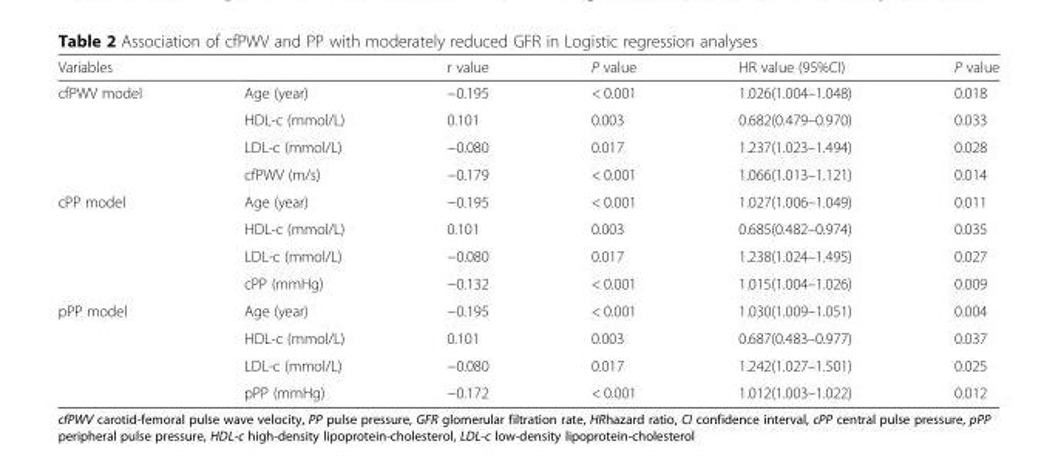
<table><thead><tr><td>Variables</td><td></td><td>r value</td><td>P value</td><td>HR value (95%CI)</td><td>P value</td></tr></thead><tbody><tr><td rowspan="4">cfPWV model</td><td>Age (year)</td><td>−0.195</td><td>&lt; 0.001</td><td>1.026(1.004–1.048)</td><td>0.018</td></tr><tr><td>HDL-c (mmol/L)</td><td>0.101</td><td>0.003</td><td>0.682(0.479–0.970)</td><td>0.033</td></tr><tr><td>LDL-c (mmol/L)</td><td>−0.080</td><td>0.017</td><td>1.237(1.023–1.494)</td><td>0.028</td></tr><tr><td>cfPWV (m/s)</td><td>−0.179</td><td>&lt; 0.001</td><td>1.066(1.013–1.121)</td><td>0.014</td></tr><tr><td rowspan="4">cPP model</td><td>Age (year)</td><td>−0.195</td><td>&lt; 0.001</td><td>1.027(1.006–1.049)</td><td>0.011</td></tr><tr><td>HDL-c (mmol/L)</td><td>0.101</td><td>0.003</td><td>0.685(0.482–0.974)</td><td>0.035</td></tr><tr><td>LDL-c (mmol/L)</td><td>−0.080</td><td>0.017</td><td>1.238(1.024–1.495)</td><td>0.027</td></tr><tr><td>cPP (mmHg)</td><td>−0.132</td><td>&lt; 0.001</td><td>1.015(1.004–1.026)</td><td>0.009</td></tr><tr><td rowspan="4">pPP model</td><td>Age (year)</td><td>−0.195</td><td>&lt; 0.001</td><td>1.030(1.009–1.051)</td><td>0.004</td></tr><tr><td>HDL-c (mmol/L)</td><td>0.101</td><td>0.003</td><td>0.687(0.483–0.977)</td><td>0.037</td></tr><tr><td>LDL-c (mmol/L)</td><td>−0.080</td><td>0.017</td><td>1.242(1.027–1.501)</td><td>0.025</td></tr><tr><td>pPP (mmHg)</td><td>−0.172</td><td>&lt; 0.001</td><td>1.012(1.003–1.022)</td><td>0.012</td></tr></tbody></table>